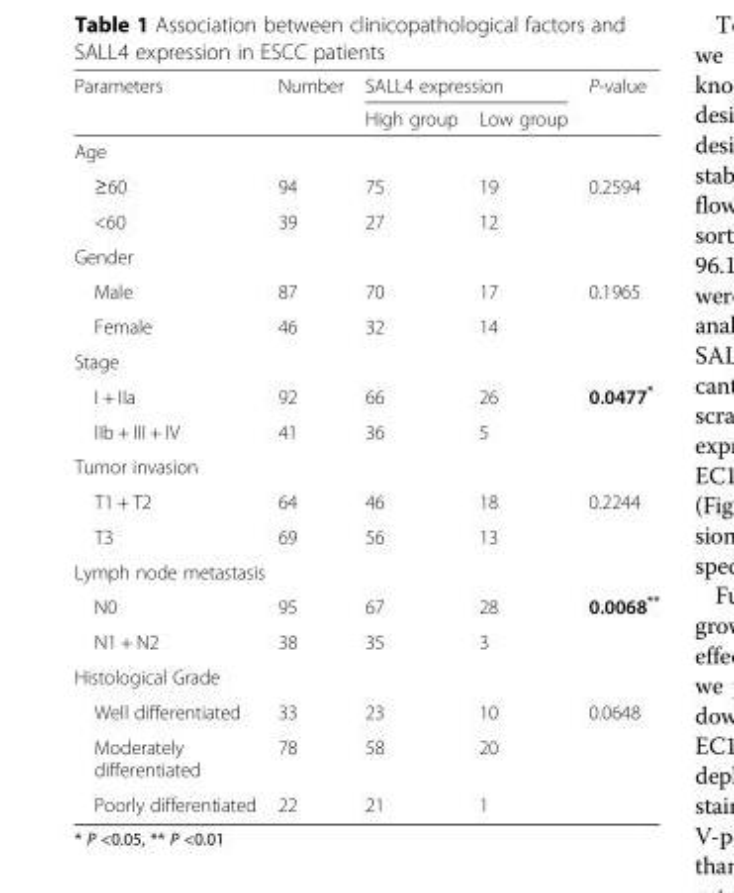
<table><thead><tr><td rowspan="2">Parameters</td><td rowspan="2">Number</td><td colspan="2">SALL4 expression</td><td rowspan="2">P-value</td></tr><tr><td>High group</td><td>Low group</td></tr></thead><tbody><tr><td colspan="5">Age</td></tr><tr><td>≥60</td><td>94</td><td>75</td><td>19</td><td rowspan="2">0.2594</td></tr><tr><td>&lt;60</td><td>39</td><td>27</td><td>12</td></tr><tr><td colspan="5">Gender</td></tr><tr><td>Male</td><td>87</td><td>70</td><td>17</td><td rowspan="2">0.1965</td></tr><tr><td>Female</td><td>46</td><td>32</td><td>14</td></tr><tr><td colspan="5">Stage</td></tr><tr><td>I + IIa</td><td>92</td><td>66</td><td>26</td><td rowspan="2">0.0477*</td></tr><tr><td>IIb + III + IV</td><td>41</td><td>36</td><td>5</td></tr><tr><td colspan="5">Tumor invasion</td></tr><tr><td>T1 + T2</td><td>64</td><td>46</td><td>18</td><td rowspan="2">0.2244</td></tr><tr><td>T3</td><td>69</td><td>56</td><td>13</td></tr><tr><td colspan="5">Lymph node metastasis</td></tr><tr><td>N0</td><td>95</td><td>67</td><td>28</td><td rowspan="2">0.0068**</td></tr><tr><td>N1 + N2</td><td>38</td><td>35</td><td>3</td></tr><tr><td colspan="5">Histological Grade</td></tr><tr><td>Well differentiated</td><td>33</td><td>23</td><td>10</td><td rowspan="3">0.0648</td></tr><tr><td>Moderately differentiated</td><td>78</td><td>58</td><td>20</td></tr><tr><td>Poorly differentiated</td><td>22</td><td>21</td><td>1</td></tr></tbody></table>